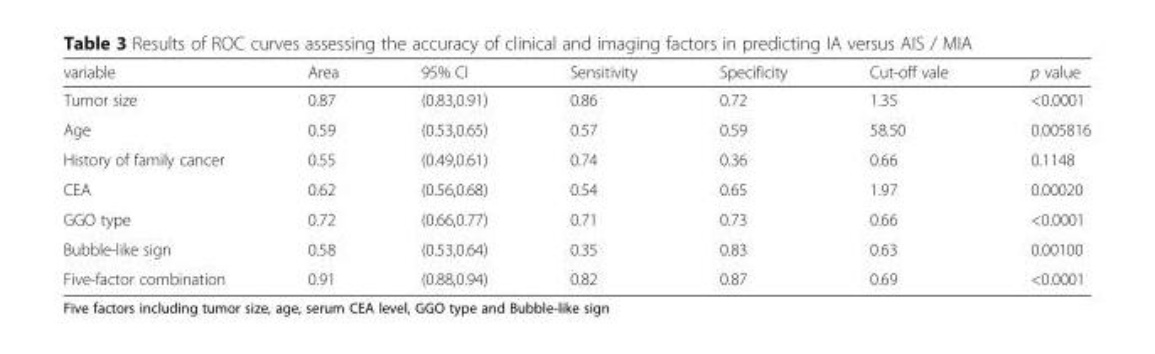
<table><thead><tr><td>variable</td><td>Area</td><td>95% CI</td><td>Sensitivity</td><td>Specificity</td><td>Cut-off vale</td><td>p value</td></tr></thead><tbody><tr><td>Tumor size</td><td>0.87</td><td>(0.83,0.91)</td><td>0.86</td><td>0.72</td><td>1.35</td><td>&lt;0.0001</td></tr><tr><td>Age</td><td>0.59</td><td>(0.53,0.65)</td><td>0.57</td><td>0.59</td><td>58.50</td><td>0.005816</td></tr><tr><td>History of family cancer</td><td>0.55</td><td>(0.49,0.61)</td><td>0.74</td><td>0.36</td><td>0.66</td><td>0.1148</td></tr><tr><td>CEA</td><td>0.62</td><td>(0.56,0.68)</td><td>0.54</td><td>0.65</td><td>1.97</td><td>0.00020</td></tr><tr><td>GGO type</td><td>0.72</td><td>(0.66,0.77)</td><td>0.71</td><td>0.73</td><td>0.66</td><td>&lt;0.0001</td></tr><tr><td>Bubble-like sign</td><td>0.58</td><td>(0.53,0.64)</td><td>0.35</td><td>0.83</td><td>0.63</td><td>0.00100</td></tr><tr><td>Five-factor combination</td><td>0.91</td><td>(0.88,0.94)</td><td>0.82</td><td>0.87</td><td>0.69</td><td>&lt;0.0001</td></tr></tbody></table>